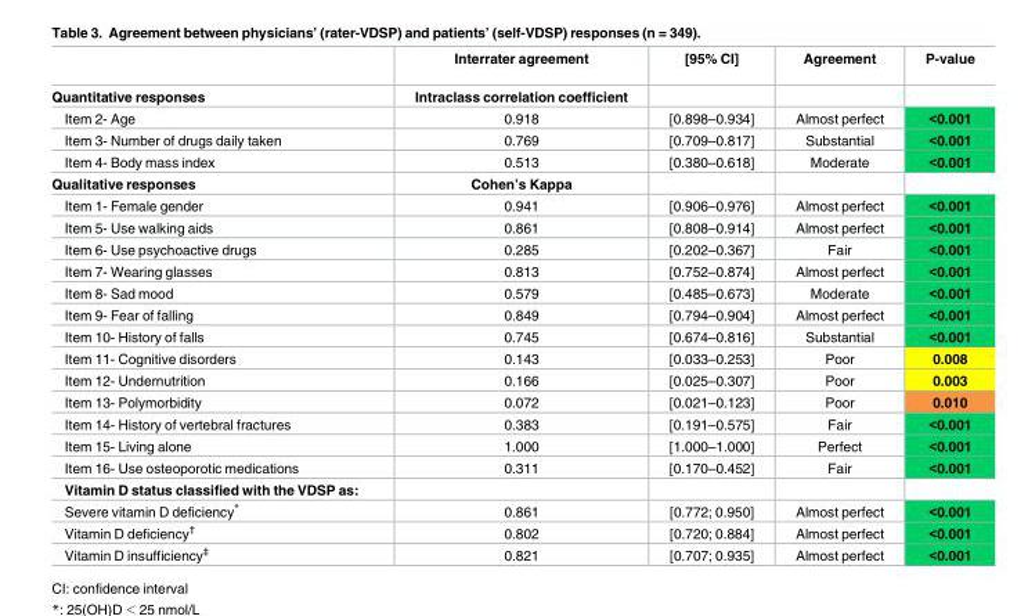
<table><thead><tr><td></td><td>Interrater agreement</td><td>[95% CI]</td><td>Agreement</td><td>P-value</td></tr></thead><tbody><tr><td>Quantitative responses</td><td>Intraclass correlation coefficient</td><td></td><td></td><td></td></tr><tr><td>Item 2- Age</td><td>0.918</td><td>[0.898–0.934]</td><td>Almost perfect</td><td>&lt;0.001</td></tr><tr><td>Item 3- Number of drugs daily taken</td><td>0.769</td><td>[0.709–0.817]</td><td>Substantial</td><td>&lt;0.001</td></tr><tr><td>Item 4- Body mass index</td><td>0.513</td><td>[0.380–0.618]</td><td>Moderate</td><td>&lt;0.001</td></tr><tr><td>Qualitative responses</td><td>Cohen’s Kappa</td><td></td><td></td><td></td></tr><tr><td>Item 1- Female gender</td><td>0.941</td><td>[0.906–0.976]</td><td>Almost perfect</td><td>&lt;0.001</td></tr><tr><td>Item 5- Use walking aids</td><td>0.861</td><td>[0.808–0.914]</td><td>Almost perfect</td><td>&lt;0.001</td></tr><tr><td>Item 6- Use psychoactive drugs</td><td>0.285</td><td>[0.202–0.367]</td><td>Fair</td><td>&lt;0.001</td></tr><tr><td>Item 7- Wearing glasses</td><td>0.813</td><td>[0.752–0.874]</td><td>Almost perfect</td><td>&lt;0.001</td></tr><tr><td>Item 8- Sad mood</td><td>0.579</td><td>[0.485–0.673]</td><td>Moderate</td><td>&lt;0.001</td></tr><tr><td>Item 9- Fear of falling</td><td>0.849</td><td>[0.794–0.904]</td><td>Almost perfect</td><td>&lt;0.001</td></tr><tr><td>Item 10- History of falls</td><td>0.745</td><td>[0.674–0.816]</td><td>Substantial</td><td>&lt;0.001</td></tr><tr><td>Item 11- Cognitive disorders</td><td>0.143</td><td>[0.033–0.253]</td><td>Poor</td><td>0.008</td></tr><tr><td>Item 12- Undernutrition</td><td>0.166</td><td>[0.025–0.307]</td><td>Poor</td><td>0.003</td></tr><tr><td>Item 13- Polymorbidity</td><td>0.072</td><td>[0.021–0.123]</td><td>Poor</td><td>0.010</td></tr><tr><td>Item 14- History of vertebral fractures</td><td>0.383</td><td>[0.191–0.575]</td><td>Fair</td><td>&lt;0.001</td></tr><tr><td>Item 15- Living alone</td><td>1.000</td><td>[1.000–1.000]</td><td>Perfect</td><td>&lt;0.001</td></tr><tr><td>Item 16- Use osteoporotic medications</td><td>0.311</td><td>[0.170–0.452]</td><td>Fair</td><td>&lt;0.001</td></tr><tr><td colspan="5">Vitamin D status classified with the VDSP as:</td></tr><tr><td>Severe vitamin D deficiency*</td><td>0.861</td><td>[0.772; 0.950]</td><td>Almost perfect</td><td>&lt;0.001</td></tr><tr><td>Vitamin D deficiency<sup>†</sup></td><td>0.802</td><td>[0.720; 0.884]</td><td>Almost perfect</td><td>&lt;0.001</td></tr><tr><td>Vitamin D insufficiency<sup>‡</sup></td><td>0.821</td><td>[0.707; 0.935]</td><td>Almost perfect</td><td>&lt;0.001</td></tr></tbody></table>